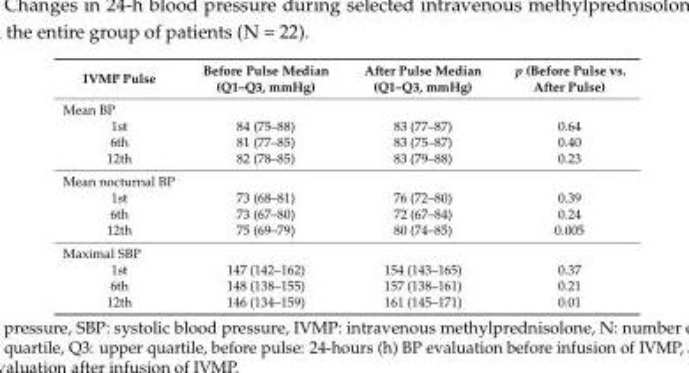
<table><thead><tr><td>IVMP Pulse</td><td>Before Pulse Median (Q1–Q3, mmHg)</td><td>After Pulse Median (Q1–Q3, mmHg)</td><td>p (Before Pulse vs. After Pulse)</td></tr></thead><tbody><tr><td colspan="4">Mean BP</td></tr><tr><td>1st</td><td>84 (75–88)</td><td>83 (77–87)</td><td>0.64</td></tr><tr><td>6th</td><td>81 (77–85)</td><td>83 (75–87)</td><td>0.40</td></tr><tr><td>12th</td><td>82 (78–85)</td><td>83 (79–88)</td><td>0.23</td></tr><tr><td colspan="4">Mean nocturnal BP</td></tr><tr><td>1st</td><td>73 (68–81)</td><td>76 (72–80)</td><td>0.39</td></tr><tr><td>6th</td><td>73 (67–80)</td><td>72 (67–84)</td><td>0.24</td></tr><tr><td>12th</td><td>75 (69–79)</td><td>80 (74–85)</td><td>0.005</td></tr><tr><td colspan="4">Maximal SBP</td></tr><tr><td>1st</td><td>147 (142–162)</td><td>154 (143–165)</td><td>0.37</td></tr><tr><td>6th</td><td>148 (138–155)</td><td>157 (138–161)</td><td>0.21</td></tr><tr><td>12th</td><td>146 (134–159)</td><td>161 (145–171)</td><td>0.01</td></tr></tbody></table>